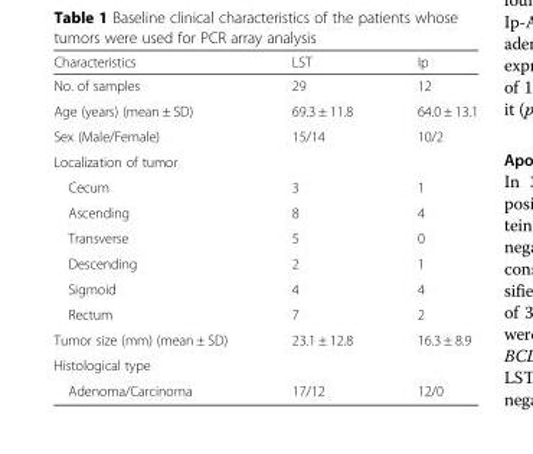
<table><thead><tr><td>Characteristics</td><td>LST</td><td>Ip</td></tr></thead><tbody><tr><td>No. of samples</td><td>29</td><td>12</td></tr><tr><td>Age (years) (mean ± SD)</td><td>69.3 ± 11.8</td><td>64.0 ± 13.1</td></tr><tr><td>Sex (Male/Female)</td><td>15/14</td><td>10/2</td></tr><tr><td colspan="3">Localization of tumor</td></tr><tr><td>Cecum</td><td>3</td><td>1</td></tr><tr><td>Ascending</td><td>8</td><td>4</td></tr><tr><td>Transverse</td><td>5</td><td>0</td></tr><tr><td>Descending</td><td>2</td><td>1</td></tr><tr><td>Sigmoid</td><td>4</td><td>4</td></tr><tr><td>Rectum</td><td>7</td><td>2</td></tr><tr><td>Tumor size (mm) (mean ± SD)</td><td>23.1 ± 12.8</td><td>16.3 ± 8.9</td></tr><tr><td colspan="3">Histological type</td></tr><tr><td>Adenoma/Carcinoma</td><td>17/12</td><td>12/0</td></tr></tbody></table>